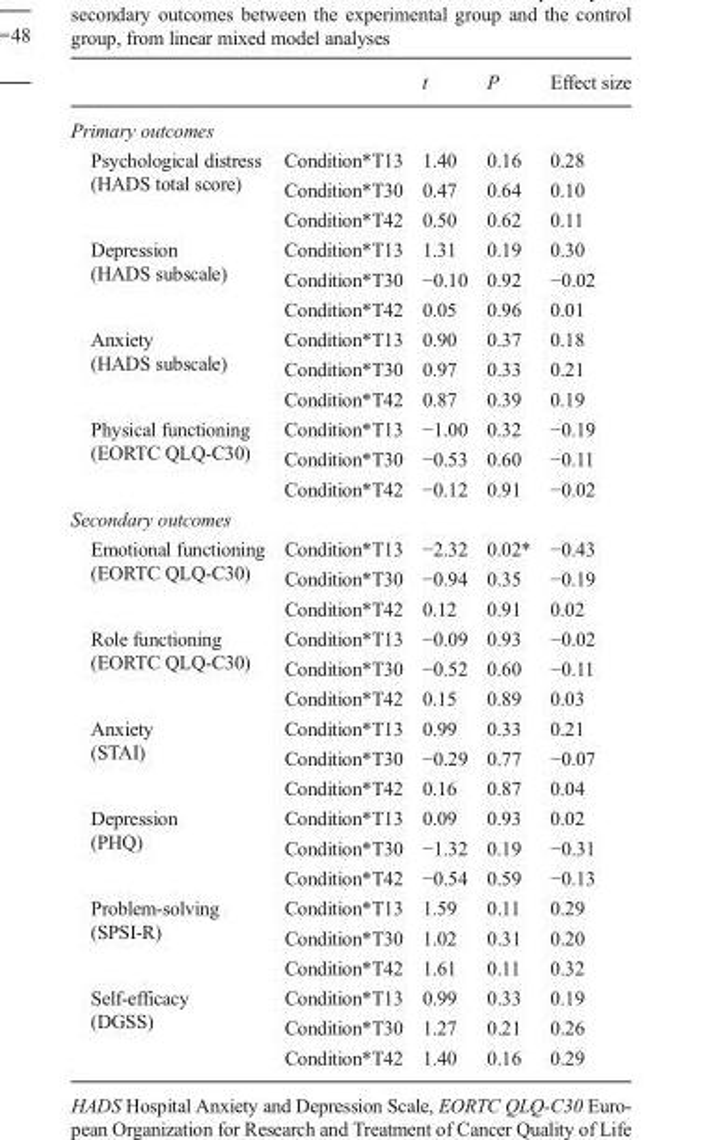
<table><thead><tr><td></td><td></td><td>t</td><td>P</td><td>Effect size</td></tr></thead><tbody><tr><td colspan="5">Primary outcomes</td></tr><tr><td rowspan="3">Psychological distress (HADS total score)</td><td>Condition*T13</td><td>1.40</td><td>0.16</td><td>0.28</td></tr><tr><td>Condition*T30</td><td>0.47</td><td>0.64</td><td>0.10</td></tr><tr><td>Condition*T42</td><td>0.50</td><td>0.62</td><td>0.11</td></tr><tr><td rowspan="3">Depression (HADS subscale)</td><td>Condition*T13</td><td>1.31</td><td>0.19</td><td>0.30</td></tr><tr><td>Condition*T30</td><td>−0.10</td><td>0.92</td><td>−0.02</td></tr><tr><td>Condition*T42</td><td>0.05</td><td>0.96</td><td>0.01</td></tr><tr><td rowspan="3">Anxiety (HADS subscale)</td><td>Condition*T13</td><td>0.90</td><td>0.37</td><td>0.18</td></tr><tr><td>Condition*T30</td><td>0.97</td><td>0.33</td><td>0.21</td></tr><tr><td>Condition*T42</td><td>0.87</td><td>0.39</td><td>0.19</td></tr><tr><td rowspan="3">Physical functioning (EORTC QLQ-C30)</td><td>Condition*T13</td><td>−1.00</td><td>0.32</td><td>−0.19</td></tr><tr><td>Condition*T30</td><td>−0.53</td><td>0.60</td><td>−0.11</td></tr><tr><td>Condition*T42</td><td>−0.12</td><td>0.91</td><td>−0.02</td></tr><tr><td colspan="5">Secondary outcomes</td></tr><tr><td rowspan="3">Emotional functioning (EORTC QLQ-C30)</td><td>Condition*T13</td><td>−2.32</td><td>0.02*</td><td>−0.43</td></tr><tr><td>Condition*T30</td><td>−0.94</td><td>0.35</td><td>−0.19</td></tr><tr><td>Condition*T42</td><td>0.12</td><td>0.91</td><td>0.02</td></tr><tr><td rowspan="3">Role functioning (EORTC QLQ-C30)</td><td>Condition*T13</td><td>−0.09</td><td>0.93</td><td>−0.02</td></tr><tr><td>Condition*T30</td><td>−0.52</td><td>0.60</td><td>−0.11</td></tr><tr><td>Condition*T42</td><td>0.15</td><td>0.89</td><td>0.03</td></tr><tr><td rowspan="3">Anxiety (STAI)</td><td>Condition*T13</td><td>0.99</td><td>0.33</td><td>0.21</td></tr><tr><td>Condition*T30</td><td>−0.29</td><td>0.77</td><td>−0.07</td></tr><tr><td>Condition*T42</td><td>0.16</td><td>0.87</td><td>0.04</td></tr><tr><td rowspan="3">Depression (PHQ)</td><td>Condition*T13</td><td>0.09</td><td>0.93</td><td>0.02</td></tr><tr><td>Condition*T30</td><td>−1.32</td><td>0.19</td><td>−0.31</td></tr><tr><td>Condition*T42</td><td>−0.54</td><td>0.59</td><td>−0.13</td></tr><tr><td rowspan="3">Problem-solving (SPSI-R)</td><td>Condition*T13</td><td>1.59</td><td>0.11</td><td>0.29</td></tr><tr><td>Condition*T30</td><td>1.02</td><td>0.31</td><td>0.20</td></tr><tr><td>Condition*T42</td><td>1.61</td><td>0.11</td><td>0.32</td></tr><tr><td rowspan="3">Self-efficacy (DGSS)</td><td>Condition*T13</td><td>0.99</td><td>0.33</td><td>0.19</td></tr><tr><td>Condition*T30</td><td>1.27</td><td>0.21</td><td>0.26</td></tr><tr><td>Condition*T42</td><td>1.40</td><td>0.16</td><td>0.29</td></tr></tbody></table>